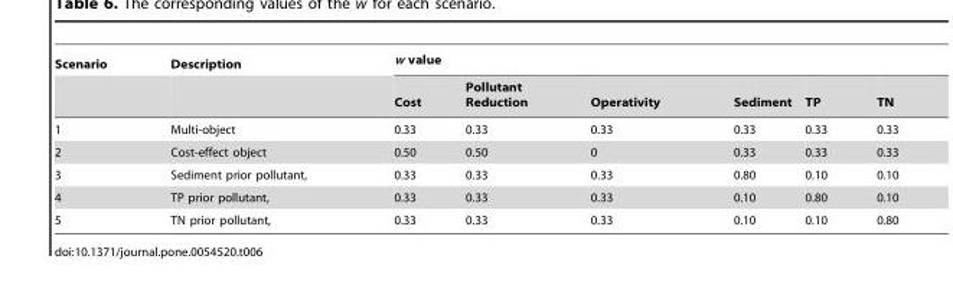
<table><thead><tr><td rowspan="2">Scenario</td><td rowspan="2">Description</td><td colspan="6">w value</td></tr><tr><td>Cost</td><td>Pollutant Reduction</td><td>Operativity</td><td>Sediment</td><td>TP</td><td>TN</td></tr></thead><tbody><tr><td>1</td><td>Multi-object</td><td>0.33</td><td>0.33</td><td>0.33</td><td>0.33</td><td>0.33</td><td>0.33</td></tr><tr><td>2</td><td>Cost-effect object</td><td>0.50</td><td>0.50</td><td>0</td><td>0.33</td><td>0.33</td><td>0.33</td></tr><tr><td>3</td><td>Sediment prior pollutant,</td><td>0.33</td><td>0.33</td><td>0.33</td><td>0.80</td><td>0.10</td><td>0.10</td></tr><tr><td>4</td><td>TP prior pollutant,</td><td>0.33</td><td>0.33</td><td>0.33</td><td>0.10</td><td>0.80</td><td>0.10</td></tr><tr><td>5</td><td>TN prior pollutant,</td><td>0.33</td><td>0.33</td><td>0.33</td><td>0.10</td><td>0.10</td><td>0.80</td></tr></tbody></table>